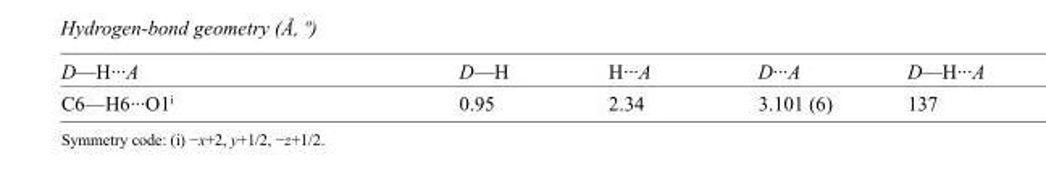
<table><tbody><tr><td>D—H···A</td><td>D—H</td><td>H···A</td><td>D···A</td><td>D—H···A</td></tr><tr><td>C6—H6···O1<sup>i</sup></td><td>0.95</td><td>2.34</td><td>3.101 (6)</td><td>137</td></tr></tbody></table>